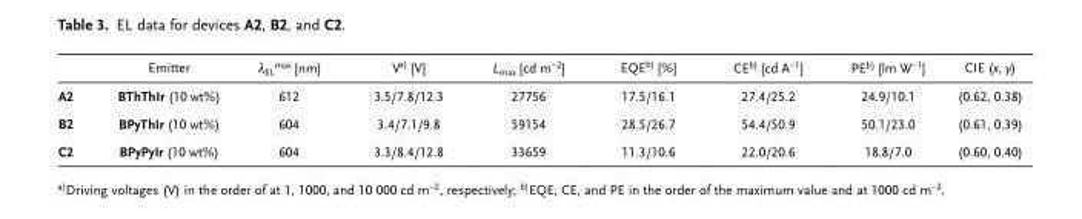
<table><thead><tr><td></td><td>Emitter</td><td>λ<sub>EL</sub><sup>max</sup> [nm]</td><td>Va) [V]</td><td>L<sub>max</sub> [cd m<sup>−2</sup>]</td><td>EQEb) [%]</td><td>CEb) [cd A<sup>−1</sup>]</td><td>PEb) [lm W<sup>−1</sup>]</td><td>CIE (x, y)</td></tr></thead><tbody><tr><td>A2</td><td>BThThIr (10 wt%)</td><td>612</td><td>3.5/7.8/12.3</td><td>27756</td><td>17.5/16.1</td><td>27.4/25.2</td><td>24.9/10.1</td><td>(0.62, 0.38)</td></tr><tr><td>B2</td><td>BPyThIr (10 wt%)</td><td>604</td><td>3.4/7.1/9.8</td><td>59154</td><td>28.5/26.7</td><td>54.4/50.9</td><td>50.1/23.0</td><td>(0.61, 0.39)</td></tr><tr><td>C2</td><td>BPyPyIr (10 wt%)</td><td>604</td><td>3.3/8.4/12.8</td><td>33659</td><td>11.3/10.6</td><td>22.0/20.6</td><td>18.8/7.0</td><td>(0.60, 0.40)</td></tr></tbody></table>